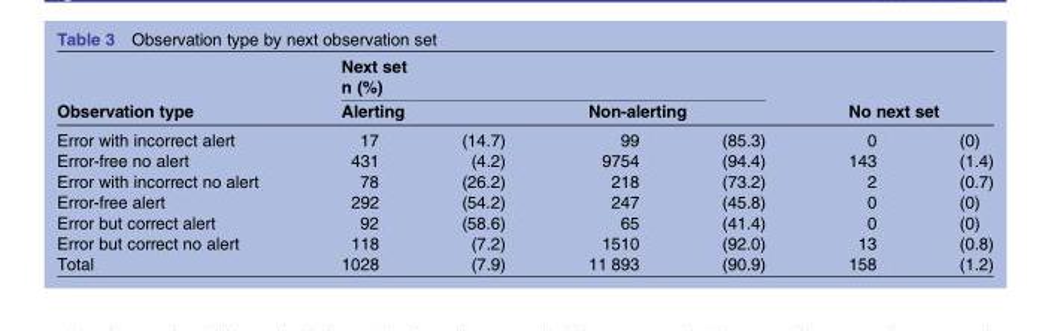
<table><thead><tr><td rowspan="3">Observation type Error with incorrect alert</td><td colspan="4">Next set n (%)</td><td></td><td></td></tr><tr><td colspan="2">Alerting</td><td colspan="2">Non-alerting</td><td colspan="2">No next set</td></tr><tr><td>17</td><td>(14.7)</td><td>99</td><td>(85.3)</td><td>0</td><td>(0)</td></tr></thead><tbody><tr><td>Error-free no alert</td><td>431</td><td>(4.2)</td><td>9754</td><td>(94.4)</td><td>143</td><td>(1.4)</td></tr><tr><td>Error with incorrect no alert</td><td>78</td><td>(26.2)</td><td>218</td><td>(73.2)</td><td>2</td><td>(0.7)</td></tr><tr><td>Error-free alert</td><td>292</td><td>(54.2)</td><td>247</td><td>(45.8)</td><td>0</td><td>(0)</td></tr><tr><td>Error but correct alert</td><td>92</td><td>(58.6)</td><td>65</td><td>(41.4)</td><td>0</td><td>(0)</td></tr><tr><td>Error but correct no alert</td><td>118</td><td>(7.2)</td><td>1510</td><td>(92.0)</td><td>13</td><td>(0.8)</td></tr><tr><td>Total</td><td>1028</td><td>(7.9)</td><td>11 893</td><td>(90.9)</td><td>158</td><td>(1.2)</td></tr></tbody></table>